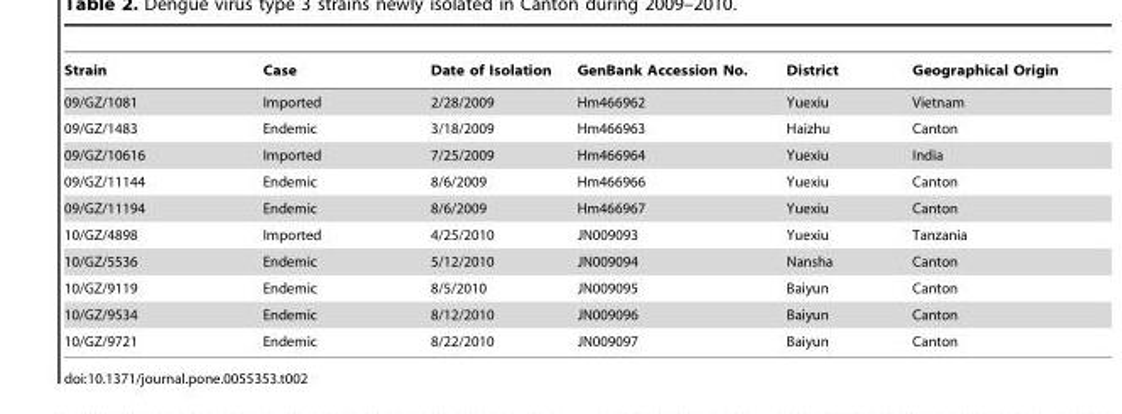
<table><thead><tr><td>Strain</td><td>Case</td><td>Date of Isolation</td><td>GenBank Accession No.</td><td>District</td><td>Geographical Origin</td></tr></thead><tbody><tr><td>09/GZ/1081</td><td>Imported</td><td>2/28/2009</td><td>Hm466962</td><td>Yuexiu</td><td>Vietnam</td></tr><tr><td>09/GZ/1483</td><td>Endemic</td><td>3/18/2009</td><td>Hm466963</td><td>Haizhu</td><td>Canton</td></tr><tr><td>09/GZ/10616</td><td>Imported</td><td>7/25/2009</td><td>Hm466964</td><td>Yuexiu</td><td>India</td></tr><tr><td>09/GZ/11144</td><td>Endemic</td><td>8/6/2009</td><td>Hm466966</td><td>Yuexiu</td><td>Canton</td></tr><tr><td>09/GZ/11194</td><td>Endemic</td><td>8/6/2009</td><td>Hm466967</td><td>Yuexiu</td><td>Canton</td></tr><tr><td>10/GZ/4898</td><td>Imported</td><td>4/25/2010</td><td>JN009093</td><td>Yuexiu</td><td>Tanzania</td></tr><tr><td>10/GZ/5536</td><td>Endemic</td><td>5/12/2010</td><td>JN009094</td><td>Nansha</td><td>Canton</td></tr><tr><td>10/GZ/9119</td><td>Endemic</td><td>8/5/2010</td><td>JN009095</td><td>Baiyun</td><td>Canton</td></tr><tr><td>10/GZ/9534</td><td>Endemic</td><td>8/12/2010</td><td>JN009096</td><td>Baiyun</td><td>Canton</td></tr><tr><td>10/GZ/9721</td><td>Endemic</td><td>8/22/2010</td><td>JN009097</td><td>Baiyun</td><td>Canton</td></tr></tbody></table>